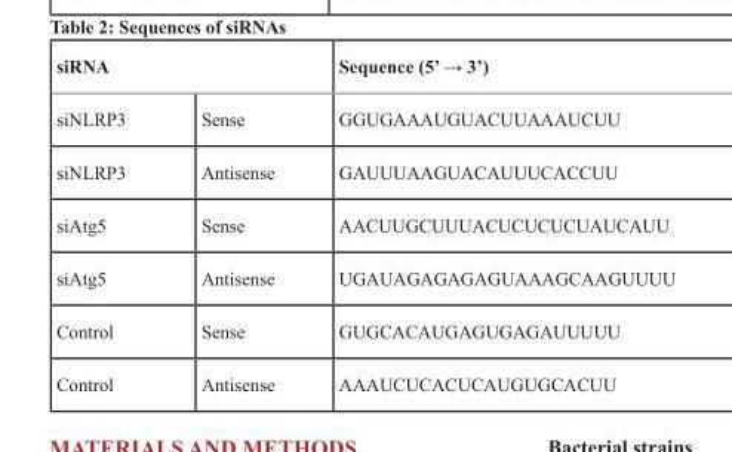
<table><thead><tr><td colspan="2">siRNA</td><td rowspan="2">Sequence (5’ → 3’) GGUGAAAUGUACUUAAAUCUU</td></tr><tr><td>siNLRP3</td><td>Sense</td></tr></thead><tbody><tr><td>siNLRP3</td><td>Antisense</td><td>GAUUUAAGUACAUUUCACCUU</td></tr><tr><td>siAtg5</td><td>Sense</td><td>AACUUGCUUUACUCUCUCUAUCAUU</td></tr><tr><td>siAtg5</td><td>Antisense</td><td>UGAUAGAGAGAGUAAAGCAAGUUUU</td></tr><tr><td>Control</td><td>Sense</td><td>GUGCACAUGAGUGAGAUUUUU</td></tr><tr><td>Control</td><td>Antisense</td><td>AAAUCUCACUCAUGUGCACUU</td></tr></tbody></table>